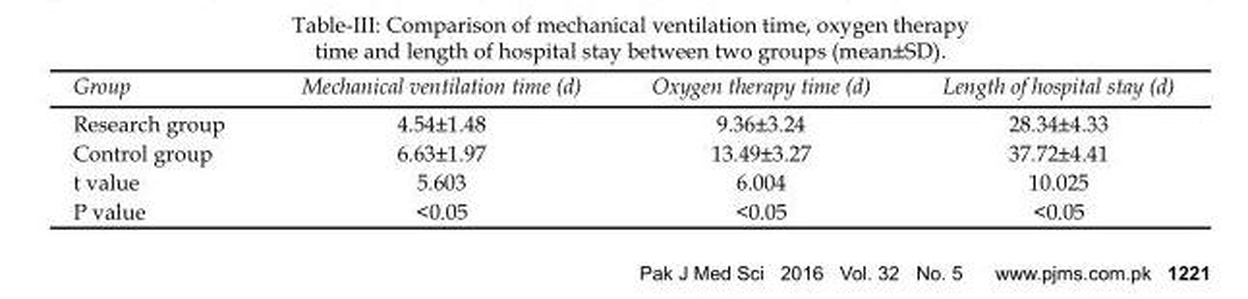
<table><thead><tr><td>Group</td><td>Mechanical ventilation time (d)</td><td>Oxygen therapy time (d)</td><td>Length of hospital stay (d)</td></tr></thead><tbody><tr><td>Research group</td><td>4.54±1.48</td><td>9.36±3.24</td><td>28.34±4.33</td></tr><tr><td>Control group</td><td>6.63±1.97</td><td>13.49±3.27</td><td>37.72±4.41</td></tr><tr><td>t value</td><td>5.603</td><td>6.004</td><td>10.025</td></tr><tr><td>P value</td><td>&lt;0.05</td><td>&lt;0.05</td><td>&lt;0.05</td></tr></tbody></table>